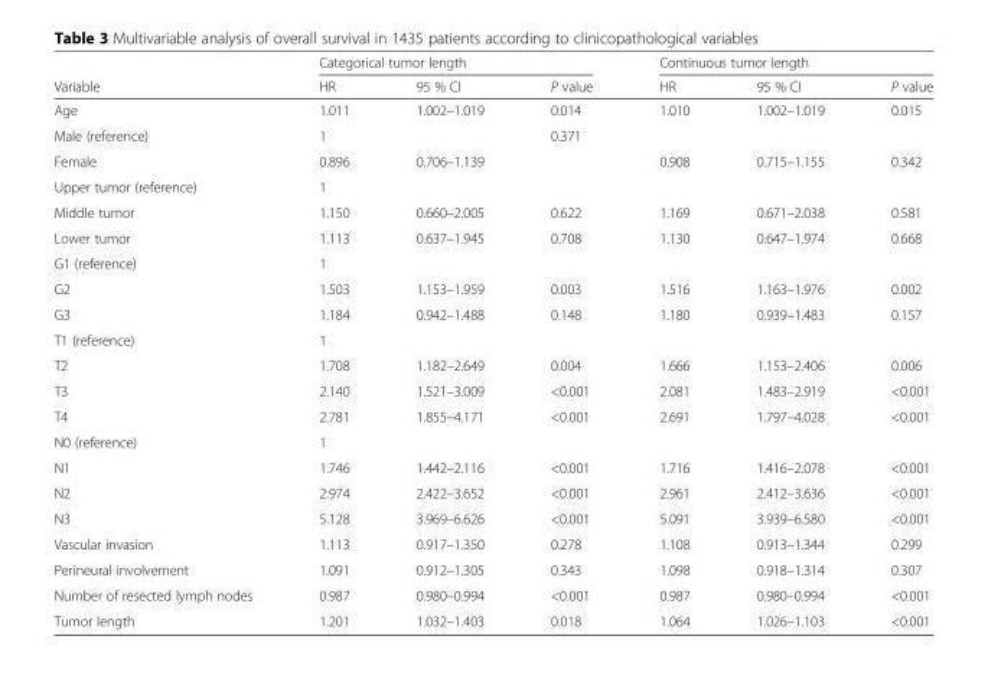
<table><thead><tr><td rowspan="2">Variable</td><td colspan="3">Categorical tumor length</td><td colspan="3">Continuous tumor length</td></tr><tr><td>HR</td><td>95 % CI</td><td>P value</td><td>HR</td><td>95 % CI</td><td>P value</td></tr></thead><tbody><tr><td>Age</td><td>1.011</td><td>1.002–1.019</td><td>0.014</td><td>1.010</td><td>1.002–1.019</td><td>0.015</td></tr><tr><td>Male (reference)</td><td>1</td><td></td><td>0.371</td><td></td><td></td><td></td></tr><tr><td>Female</td><td>0.896</td><td>0.706–1.139</td><td></td><td>0.908</td><td>0.715–1.155</td><td>0.342</td></tr><tr><td>Upper tumor (reference)</td><td>1</td><td></td><td></td><td></td><td></td><td></td></tr><tr><td>Middle tumor</td><td>1.150</td><td>0.660–2.005</td><td>0.622</td><td>1.169</td><td>0.671–2.038</td><td>0.581</td></tr><tr><td>Lower tumor</td><td>1.113</td><td>0.637–1.945</td><td>0.708</td><td>1.130</td><td>0.647–1.974</td><td>0.668</td></tr><tr><td>G1 (reference)</td><td>1</td><td></td><td></td><td></td><td></td><td></td></tr><tr><td>G2</td><td>1.503</td><td>1.153–1.959</td><td>0.003</td><td>1.516</td><td>1.163–1.976</td><td>0.002</td></tr><tr><td>G3</td><td>1.184</td><td>0.942–1.488</td><td>0.148</td><td>1.180</td><td>0.939–1.483</td><td>0.157</td></tr><tr><td>T1 (reference)</td><td>1</td><td></td><td></td><td></td><td></td><td></td></tr><tr><td>T2</td><td>1.708</td><td>1.182–2.649</td><td>0.004</td><td>1.666</td><td>1.153–2.406</td><td>0.006</td></tr><tr><td>T3</td><td>2.140</td><td>1.521–3.009</td><td>&lt;0.001</td><td>2.081</td><td>1.483–2.919</td><td>&lt;0.001</td></tr><tr><td>T4</td><td>2.781</td><td>1.855–4.171</td><td>&lt;0.001</td><td>2.691</td><td>1.797–4.028</td><td>&lt;0.001</td></tr><tr><td>N0 (reference)</td><td>1</td><td></td><td></td><td></td><td></td><td></td></tr><tr><td>N1</td><td>1.746</td><td>1.442–2.116</td><td>&lt;0.001</td><td>1.716</td><td>1.416–2.078</td><td>&lt;0.001</td></tr><tr><td>N2</td><td>2.974</td><td>2.422–3.652</td><td>&lt;0.001</td><td>2.961</td><td>2.412–3.636</td><td>&lt;0.001</td></tr><tr><td>N3</td><td>5.128</td><td>3.969–6.626</td><td>&lt;0.001</td><td>5.091</td><td>3.939–6.580</td><td>&lt;0.001</td></tr><tr><td>Vascular invasion</td><td>1.113</td><td>0.917–1.350</td><td>0.278</td><td>1.108</td><td>0.913–1.344</td><td>0.299</td></tr><tr><td>Perineural involvement</td><td>1.091</td><td>0.912–1.305</td><td>0.343</td><td>1.098</td><td>0.918–1.314</td><td>0.307</td></tr><tr><td>Number of resected lymph nodes</td><td>0.987</td><td>0.980–0.994</td><td>&lt;0.001</td><td>0.987</td><td>0.980–0.994</td><td>&lt;0.001</td></tr><tr><td>Tumor length</td><td>1.201</td><td>1.032–1.403</td><td>0.018</td><td>1.064</td><td>1.026–1.103</td><td>&lt;0.001</td></tr></tbody></table>